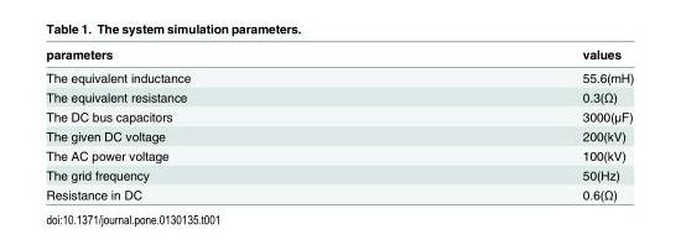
<table><thead><tr><td>parameters</td><td>values</td></tr></thead><tbody><tr><td>The equivalent inductance</td><td>55.6(mH)</td></tr><tr><td>The equivalent resistance</td><td>0.3(Ω)</td></tr><tr><td>The DC bus capacitors</td><td>3000(μF)</td></tr><tr><td>The given DC voltage</td><td>200(kV)</td></tr><tr><td>The AC power voltage</td><td>100(kV)</td></tr><tr><td>The grid frequency</td><td>50(Hz)</td></tr><tr><td>Resistance in DC</td><td>0.6(Ω)</td></tr></tbody></table>